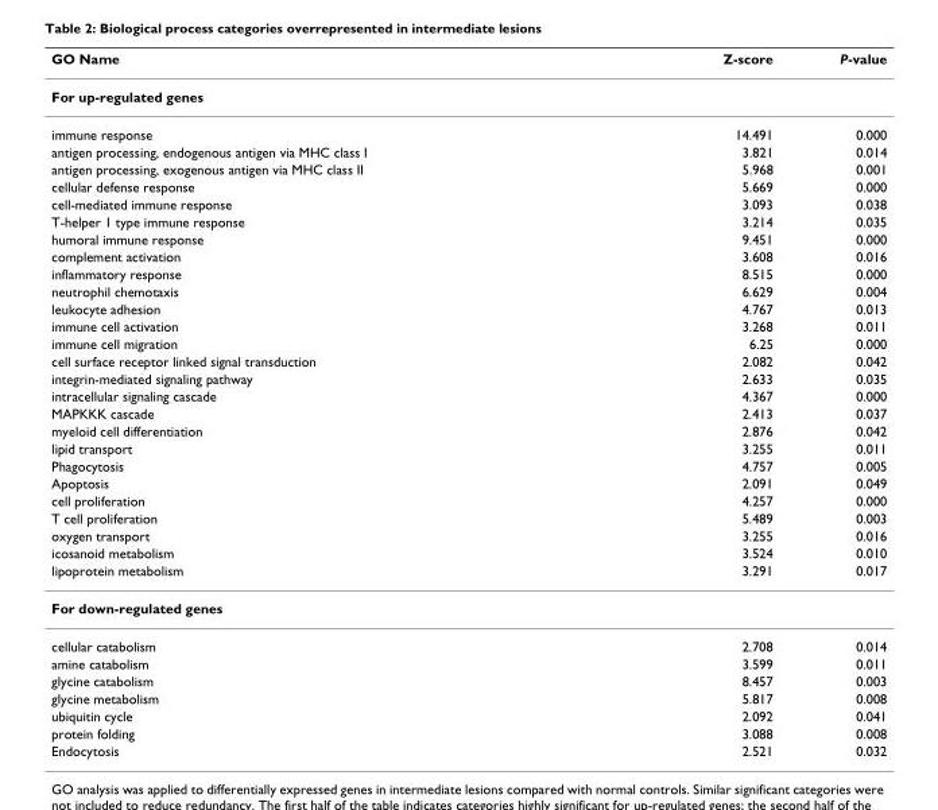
<table><thead><tr><td>GO Name</td><td>Z-score</td><td>P-value</td></tr></thead><tbody><tr><td colspan="3">For up-regulated genes</td></tr><tr><td>immune response</td><td>14.491</td><td>0.000</td></tr><tr><td>antigen processing, endogenous antigen via MHC class I</td><td>3.821</td><td>0.014</td></tr><tr><td>antigen processing, exogenous antigen via MHC class II</td><td>5.968</td><td>0.001</td></tr><tr><td>cellular defense response</td><td>5.669</td><td>0.000</td></tr><tr><td>cell-mediated immune response</td><td>3.093</td><td>0.038</td></tr><tr><td>T-helper 1 type immune response</td><td>3.214</td><td>0.035</td></tr><tr><td>humoral immune response</td><td>9.451</td><td>0.000</td></tr><tr><td>complement activation</td><td>3.608</td><td>0.016</td></tr><tr><td>inflammatory response</td><td>8.515</td><td>0.000</td></tr><tr><td>neutrophil chemotaxis</td><td>6.629</td><td>0.004</td></tr><tr><td>leukocyte adhesion</td><td>4.767</td><td>0.013</td></tr><tr><td>immune cell activation</td><td>3.268</td><td>0.011</td></tr><tr><td>immune cell migration</td><td>6.25</td><td>0.000</td></tr><tr><td>cell surface receptor linked signal transduction</td><td>2.082</td><td>0.042</td></tr><tr><td>integrin-mediated signaling pathway</td><td>2.633</td><td>0.035</td></tr><tr><td>intracellular signaling cascade</td><td>4.367</td><td>0.000</td></tr><tr><td>MAPKKK cascade</td><td>2.413</td><td>0.037</td></tr><tr><td>myeloid cell differentiation</td><td>2.876</td><td>0.042</td></tr><tr><td>lipid transport</td><td>3.255</td><td>0.011</td></tr><tr><td>Phagocytosis</td><td>4.757</td><td>0.005</td></tr><tr><td>Apoptosis</td><td>2.091</td><td>0.049</td></tr><tr><td>cell proliferation</td><td>4.257</td><td>0.000</td></tr><tr><td>T cell proliferation</td><td>5.489</td><td>0.003</td></tr><tr><td>oxygen transport</td><td>3.255</td><td>0.016</td></tr><tr><td>icosanoid metabolism</td><td>3.524</td><td>0.010</td></tr><tr><td>lipoprotein metabolism</td><td>3.291</td><td>0.017</td></tr><tr><td colspan="3">For down-regulated genes</td></tr><tr><td>cellular catabolism</td><td>2.708</td><td>0.014</td></tr><tr><td>amine catabolism</td><td>3.599</td><td>0.011</td></tr><tr><td>glycine catabolism</td><td>8.457</td><td>0.003</td></tr><tr><td>glycine metabolism</td><td>5.817</td><td>0.008</td></tr><tr><td>ubiquitin cycle</td><td>2.092</td><td>0.041</td></tr><tr><td>protein folding</td><td>3.088</td><td>0.008</td></tr><tr><td>Endocytosis</td><td>2.521</td><td>0.032</td></tr></tbody></table>